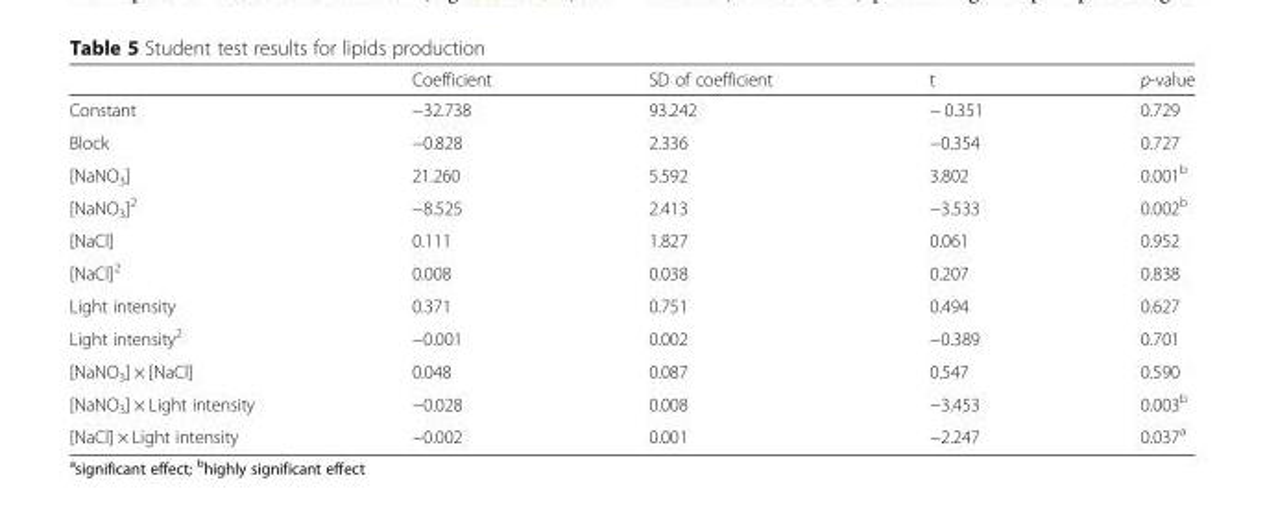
<table><thead><tr><td></td><td>Coefficient</td><td>SD of coefficient</td><td>t</td><td>p-value</td></tr></thead><tbody><tr><td>Constant</td><td>−32.738</td><td>93.242</td><td>− 0.351</td><td>0.729</td></tr><tr><td>Block</td><td>−0.828</td><td>2.336</td><td>−0.354</td><td>0.727</td></tr><tr><td>[NaNO<sub>3</sub>]</td><td>21.260</td><td>5.592</td><td>3.802</td><td>0.001<sup>b</sup></td></tr><tr><td>[NaNO<sub>3</sub>]<sup>2</sup></td><td>−8.525</td><td>2.413</td><td>−3.533</td><td>0.002<sup>b</sup></td></tr><tr><td>[NaCl]</td><td>0.111</td><td>1.827</td><td>0.061</td><td>0.952</td></tr><tr><td>[NaCl]<sup>2</sup></td><td>0.008</td><td>0.038</td><td>0.207</td><td>0.838</td></tr><tr><td>Light intensity</td><td>0.371</td><td>0.751</td><td>0.494</td><td>0.627</td></tr><tr><td>Light intensity<sup>2</sup></td><td>−0.001</td><td>0.002</td><td>−0.389</td><td>0.701</td></tr><tr><td>[NaNO<sub>3</sub>] × [NaCl]</td><td>0.048</td><td>0.087</td><td>0.547</td><td>0.590</td></tr><tr><td>[NaNO<sub>3</sub>] × Light intensity</td><td>−0.028</td><td>0.008</td><td>−3.453</td><td>0.003<sup>b</sup></td></tr><tr><td>[NaCl] × Light intensity</td><td>−0.002</td><td>0.001</td><td>−2.247</td><td>0.037<sup>a</sup></td></tr></tbody></table>